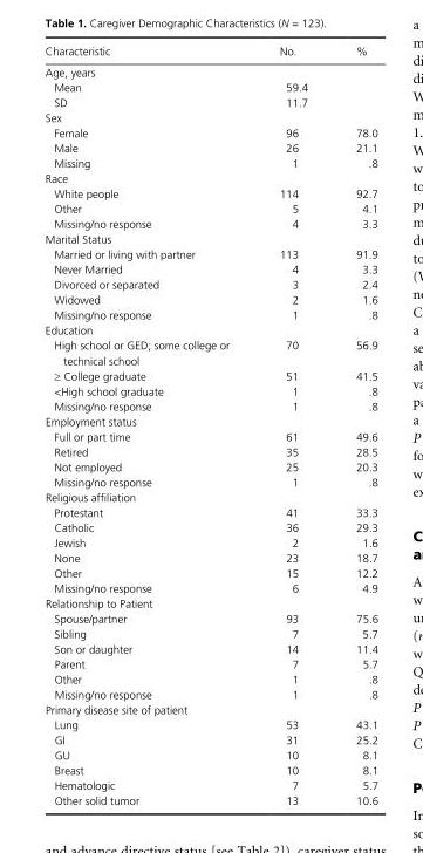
<table><thead><tr><td>Characteristic</td><td>No.</td><td>%</td></tr></thead><tbody><tr><td colspan="3">Age, years</td></tr><tr><td>Mean</td><td colspan="2">59.4</td></tr><tr><td>SD</td><td colspan="2">11.7</td></tr><tr><td colspan="3">Sex</td></tr><tr><td>Female</td><td>96</td><td>78.0</td></tr><tr><td>Male</td><td>26</td><td>21.1</td></tr><tr><td>Missing</td><td>1</td><td>.8</td></tr><tr><td colspan="3">Race</td></tr><tr><td>White people</td><td>114</td><td>92.7</td></tr><tr><td>Other</td><td>5</td><td>4.1</td></tr><tr><td>Missing/no response</td><td>4</td><td>3.3</td></tr><tr><td colspan="3">Marital Status</td></tr><tr><td>Married or living with partner</td><td>113</td><td>91.9</td></tr><tr><td>Never Married</td><td>4</td><td>3.3</td></tr><tr><td>Divorced or separated</td><td>3</td><td>2.4</td></tr><tr><td>Widowed</td><td>2</td><td>1.6</td></tr><tr><td>Missing/no response</td><td>1</td><td>.8</td></tr><tr><td colspan="3">Education</td></tr><tr><td>High school or GED; some college or technical school</td><td>70</td><td>56.9</td></tr><tr><td>≥ College graduate</td><td>51</td><td>41.5</td></tr><tr><td>&lt;High school graduate</td><td>1</td><td>.8</td></tr><tr><td>Missing/no response</td><td>1</td><td>.8</td></tr><tr><td colspan="3">Employment status</td></tr><tr><td>Full or part time</td><td>61</td><td>49.6</td></tr><tr><td>Retired</td><td>35</td><td>28.5</td></tr><tr><td>Not employed</td><td>25</td><td>20.3</td></tr><tr><td>Missing/no response</td><td>1</td><td>.8</td></tr><tr><td colspan="3">Religious affiliation</td></tr><tr><td>Protestant</td><td>41</td><td>33.3</td></tr><tr><td>Catholic</td><td>36</td><td>29.3</td></tr><tr><td>Jewish</td><td>2</td><td>1.6</td></tr><tr><td>None</td><td>23</td><td>18.7</td></tr><tr><td>Other</td><td>15</td><td>12.2</td></tr><tr><td>Missing/no response</td><td>6</td><td>4.9</td></tr><tr><td colspan="3">Relationship to Patient</td></tr><tr><td>Spouse/partner</td><td>93</td><td>75.6</td></tr><tr><td>Sibling</td><td>7</td><td>5.7</td></tr><tr><td>Son or daughter</td><td>14</td><td>11.4</td></tr><tr><td>Parent</td><td>7</td><td>5.7</td></tr><tr><td>Other</td><td>1</td><td>.8</td></tr><tr><td>Missing/no response</td><td>1</td><td>.8</td></tr><tr><td colspan="3">Primary disease site of patient</td></tr><tr><td>Lung</td><td>53</td><td>43.1</td></tr><tr><td>GI</td><td>31</td><td>25.2</td></tr><tr><td>GU</td><td>10</td><td>8.1</td></tr><tr><td>Breast</td><td>10</td><td>8.1</td></tr><tr><td>Hematologic</td><td>7</td><td>5.7</td></tr><tr><td>Other solid tumor</td><td>13</td><td>10.6</td></tr></tbody></table>